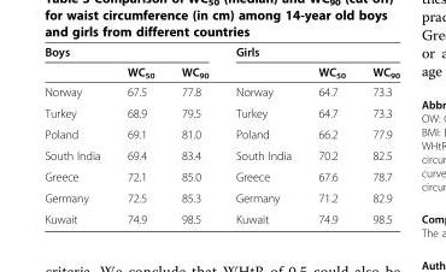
<table><thead><tr><td colspan="3">Boys</td><td colspan="3">Girls</td></tr><tr><td></td><td>WC<sub>50</sub></td><td>WC<sub>90</sub></td><td></td><td>WC<sub>50</sub></td><td>WC<sub>90</sub></td></tr></thead><tbody><tr><td>Norway</td><td>67.5</td><td>77.8</td><td>Norway</td><td>64.7</td><td>73.3</td></tr><tr><td>Turkey</td><td>68.9</td><td>79.5</td><td>Turkey</td><td>64.7</td><td>73.3</td></tr><tr><td>Poland</td><td>69.1</td><td>81.0</td><td>Poland</td><td>66.2</td><td>77.9</td></tr><tr><td>South India</td><td>69.4</td><td>83.4</td><td>South India</td><td>70.2</td><td>82.5</td></tr><tr><td>Greece</td><td>72.1</td><td>85.0</td><td>Greece</td><td>67.6</td><td>78.7</td></tr><tr><td>Germany</td><td>72.5</td><td>85.3</td><td>Germany</td><td>71.2</td><td>82.9</td></tr><tr><td>Kuwait</td><td>74.9</td><td>98.5</td><td>Kuwait</td><td>74.9</td><td>98.5</td></tr></tbody></table>